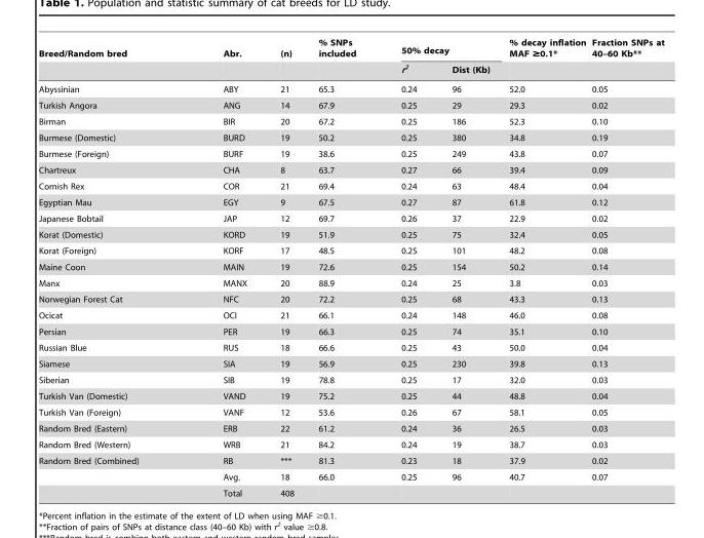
<table><thead><tr><td rowspan="2">Breed/Random bred</td><td rowspan="2">Abr.</td><td rowspan="2">(n)</td><td rowspan="2">% SNPs included</td><td colspan="2">50% decay</td><td rowspan="2">% decay inflation MAF ≥0.1*</td><td rowspan="2">Fraction SNPs at 40–60 Kb**</td></tr><tr><td>r<sup>2</sup></td><td>Dist (Kb)</td></tr></thead><tbody><tr><td>Abyssinian</td><td>ABY</td><td>21</td><td>65.3</td><td>0.24</td><td>96</td><td>52.0</td><td>0.05</td></tr><tr><td>Turkish Angora</td><td>ANG</td><td>14</td><td>67.9</td><td>0.25</td><td>29</td><td>29.3</td><td>0.02</td></tr><tr><td>Birman</td><td>BIR</td><td>20</td><td>67.2</td><td>0.25</td><td>186</td><td>52.3</td><td>0.10</td></tr><tr><td>Burmese (Domestic)</td><td>BURD</td><td>19</td><td>50.2</td><td>0.25</td><td>380</td><td>34.8</td><td>0.19</td></tr><tr><td>Burmese (Foreign)</td><td>BURF</td><td>19</td><td>38.6</td><td>0.25</td><td>249</td><td>43.8</td><td>0.07</td></tr><tr><td>Chartreux</td><td>CHA</td><td>8</td><td>63.7</td><td>0.27</td><td>66</td><td>39.4</td><td>0.09</td></tr><tr><td>Cornish Rex</td><td>COR</td><td>21</td><td>69.4</td><td>0.24</td><td>63</td><td>48.4</td><td>0.04</td></tr><tr><td>Egyptian Mau</td><td>EGY</td><td>9</td><td>67.5</td><td>0.27</td><td>87</td><td>61.8</td><td>0.12</td></tr><tr><td>Japanese Bobtail</td><td>JAP</td><td>12</td><td>69.7</td><td>0.26</td><td>37</td><td>22.9</td><td>0.02</td></tr><tr><td>Korat (Domestic)</td><td>KORD</td><td>19</td><td>51.9</td><td>0.25</td><td>75</td><td>32.4</td><td>0.05</td></tr><tr><td>Korat (Foreign)</td><td>KORF</td><td>17</td><td>48.5</td><td>0.25</td><td>101</td><td>48.2</td><td>0.08</td></tr><tr><td>Maine Coon</td><td>MAIN</td><td>19</td><td>72.6</td><td>0.25</td><td>154</td><td>50.2</td><td>0.14</td></tr><tr><td>Manx</td><td>MANX</td><td>20</td><td>88.9</td><td>0.24</td><td>25</td><td>3.8</td><td>0.03</td></tr><tr><td>Norwegian Forest Cat</td><td>NFC</td><td>20</td><td>72.2</td><td>0.25</td><td>68</td><td>43.3</td><td>0.13</td></tr><tr><td>Ocicat</td><td>OCI</td><td>21</td><td>66.1</td><td>0.24</td><td>148</td><td>46.0</td><td>0.08</td></tr><tr><td>Persian</td><td>PER</td><td>19</td><td>66.3</td><td>0.25</td><td>74</td><td>35.1</td><td>0.10</td></tr><tr><td>Russian Blue</td><td>RUS</td><td>18</td><td>66.6</td><td>0.25</td><td>43</td><td>50.0</td><td>0.04</td></tr><tr><td>Siamese</td><td>SIA</td><td>19</td><td>56.9</td><td>0.25</td><td>230</td><td>39.8</td><td>0.13</td></tr><tr><td>Siberian</td><td>SIB</td><td>19</td><td>78.8</td><td>0.25</td><td>17</td><td>32.0</td><td>0.03</td></tr><tr><td>Turkish Van (Domestic)</td><td>VAND</td><td>19</td><td>75.2</td><td>0.25</td><td>44</td><td>48.8</td><td>0.04</td></tr><tr><td>Turkish Van (Foreign)</td><td>VANF</td><td>12</td><td>53.6</td><td>0.26</td><td>67</td><td>58.1</td><td>0.05</td></tr><tr><td>Random Bred (Eastern)</td><td>ERB</td><td>22</td><td>61.2</td><td>0.24</td><td>36</td><td>26.5</td><td>0.03</td></tr><tr><td>Random Bred (Western)</td><td>WRB</td><td>21</td><td>84.2</td><td>0.24</td><td>19</td><td>38.7</td><td>0.03</td></tr><tr><td rowspan="3">Random Bred (Combined)</td><td>RB</td><td>***</td><td>81.3</td><td>0.23</td><td>18</td><td>37.9</td><td>0.02</td></tr><tr><td>Avg.</td><td>18</td><td>66.0</td><td>0.25</td><td>96</td><td>40.7</td><td>0.07</td></tr><tr><td>Total</td><td>408</td><td></td><td></td><td></td><td></td><td></td></tr></tbody></table>